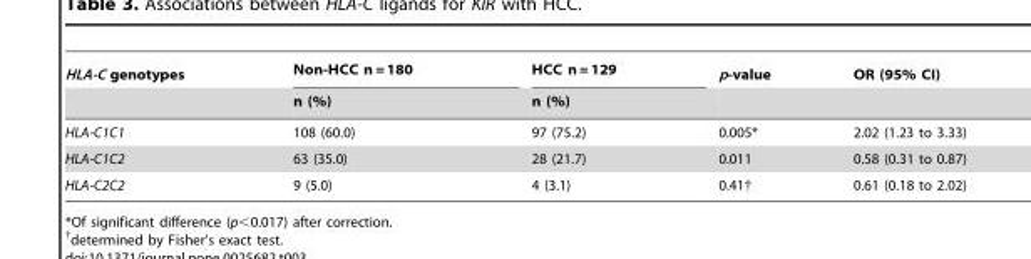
<table><thead><tr><td rowspan="2">HLA-C genotypes</td><td rowspan="2">Non-HCC n = 180 n (%)</td><td rowspan="2">HCC n = 129 n (%)</td><td rowspan="2">p-value</td><td rowspan="2">OR (95% CI)</td></tr><tr></tr></thead><tbody><tr><td>HLA-C1C1</td><td>108 (60.0)</td><td>97 (75.2)</td><td>0.005*</td><td>2.02 (1.23 to 3.33)</td></tr><tr><td>HLA-C1C2</td><td>63 (35.0)</td><td>28 (21.7)</td><td>0.011</td><td>0.58 (0.31 to 0.87)</td></tr><tr><td>HLA-C2C2</td><td>9 (5.0)</td><td>4 (3.1)</td><td>0.41†</td><td>0.61 (0.18 to 2.02)</td></tr></tbody></table>